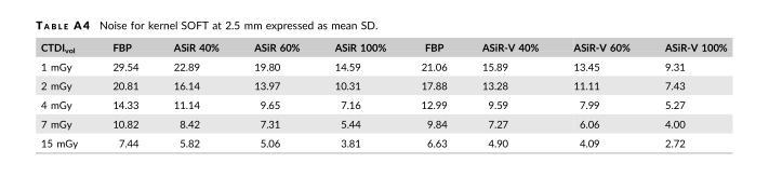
<table><thead><tr><td>CTDI<sub>vol</sub></td><td>FBP</td><td>ASiR 40%</td><td>ASiR 60%</td><td>ASiR 100%</td><td>FBP</td><td>ASiR-V 40%</td><td>ASiR-V 60%</td><td>ASiR-V 100%</td></tr></thead><tbody><tr><td>1 mGy</td><td>29.54</td><td>22.89</td><td>19.80</td><td>14.59</td><td>21.06</td><td>15.89</td><td>13.45</td><td>9.31</td></tr><tr><td>2 mGy</td><td>20.81</td><td>16.14</td><td>13.97</td><td>10.31</td><td>17.88</td><td>13.28</td><td>11.11</td><td>7.43</td></tr><tr><td>4 mGy</td><td>14.33</td><td>11.14</td><td>9.65</td><td>7.16</td><td>12.99</td><td>9.59</td><td>7.99</td><td>5.27</td></tr><tr><td>7 mGy</td><td>10.82</td><td>8.42</td><td>7.31</td><td>5.44</td><td>9.84</td><td>7.27</td><td>6.06</td><td>4.00</td></tr><tr><td>15 mGy</td><td>7.44</td><td>5.82</td><td>5.06</td><td>3.81</td><td>6.63</td><td>4.90</td><td>4.09</td><td>2.72</td></tr></tbody></table>